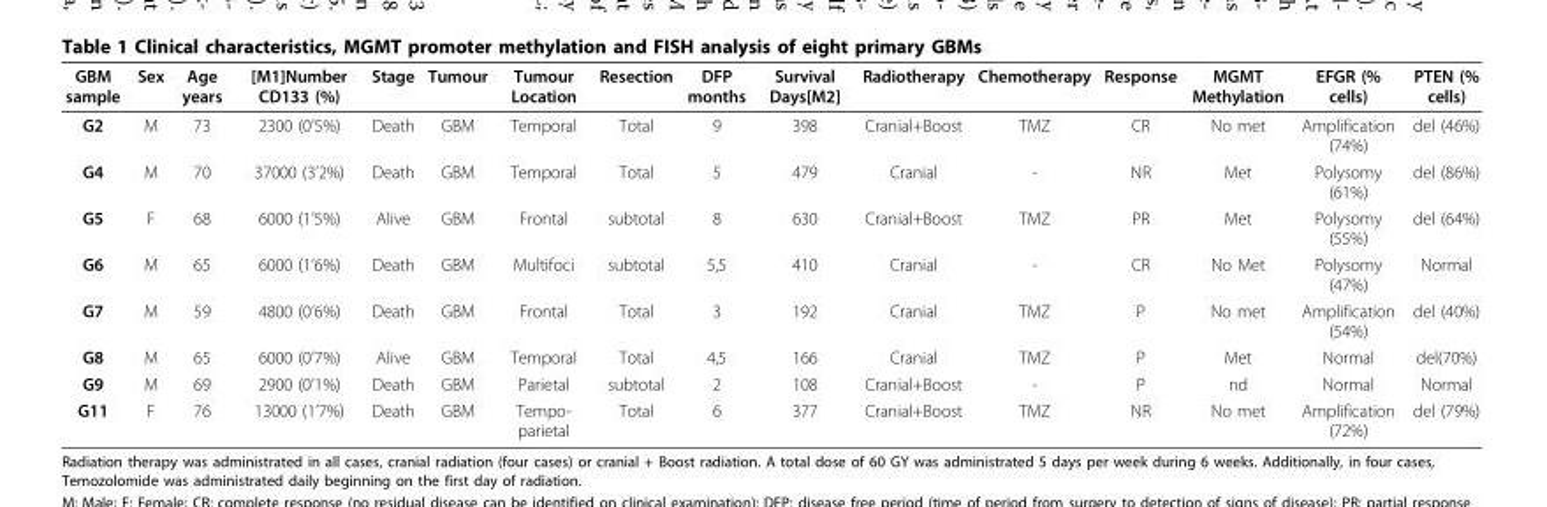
<table><thead><tr><td>GBM sample</td><td>Sex</td><td>Age years</td><td>[M1]Number CD133 (%)</td><td>Stage</td><td>Tumour</td><td>Tumour Location</td><td>Resection</td><td>DFP months</td><td>Survival Days[M2]</td><td>Radiotherapy</td><td>Chemotherapy</td><td>Response</td><td>MGMT Methylation</td><td>EFGR (% cells)</td><td>PTEN (% cells)</td></tr></thead><tbody><tr><td>G2</td><td>M</td><td>73</td><td>2300 (0’5%)</td><td>Death</td><td>GBM</td><td>Temporal</td><td>Total</td><td>9</td><td>398</td><td>Cranial+Boost</td><td>TMZ</td><td>CR</td><td>No met</td><td>Amplification (74%)</td><td>del (46%)</td></tr><tr><td>G4</td><td>M</td><td>70</td><td>37000 (3’2%)</td><td>Death</td><td>GBM</td><td>Temporal</td><td>Total</td><td>5</td><td>479</td><td>Cranial</td><td>-</td><td>NR</td><td>Met</td><td>Polysomy (61%)</td><td>del (86%)</td></tr><tr><td>G5</td><td>F</td><td>68</td><td>6000 (1’5%)</td><td>Alive</td><td>GBM</td><td>Frontal</td><td>subtotal</td><td>8</td><td>630</td><td>Cranial+Boost</td><td>TMZ</td><td>PR</td><td>Met</td><td>Polysomy (55%)</td><td>del (64%)</td></tr><tr><td>G6</td><td>M</td><td>65</td><td>6000 (1’6%)</td><td>Death</td><td>GBM</td><td>Multifoci</td><td>subtotal</td><td>5,5</td><td>410</td><td>Cranial</td><td>-</td><td>CR</td><td>No Met</td><td>Polysomy (47%)</td><td>Normal</td></tr><tr><td>G7</td><td>M</td><td>59</td><td>4800 (0’6%)</td><td>Death</td><td>GBM</td><td>Frontal</td><td>Total</td><td>3</td><td>192</td><td>Cranial</td><td>TMZ</td><td>P</td><td>No met</td><td>Amplification (54%)</td><td>del (40%)</td></tr><tr><td>G8</td><td>M</td><td>65</td><td>6000 (0’7%)</td><td>Alive</td><td>GBM</td><td>Temporal</td><td>Total</td><td>4,5</td><td>166</td><td>Cranial</td><td>TMZ</td><td>P</td><td>Met</td><td>Normal</td><td>del(70%)</td></tr><tr><td>G9</td><td>M</td><td>69</td><td>2900 (0’1%)</td><td>Death</td><td>GBM</td><td>Parietal</td><td>subtotal</td><td>2</td><td>108</td><td>Cranial+Boost</td><td>-</td><td>P</td><td>nd</td><td>Normal</td><td>Normal</td></tr><tr><td>G11</td><td>F</td><td>76</td><td>13000 (1’7%)</td><td>Death</td><td>GBM</td><td>Tempo- parietal</td><td>Total</td><td>6</td><td>377</td><td>Cranial+Boost</td><td>TMZ</td><td>NR</td><td>No met</td><td>Amplification (72%)</td><td>del (79%)</td></tr></tbody></table>